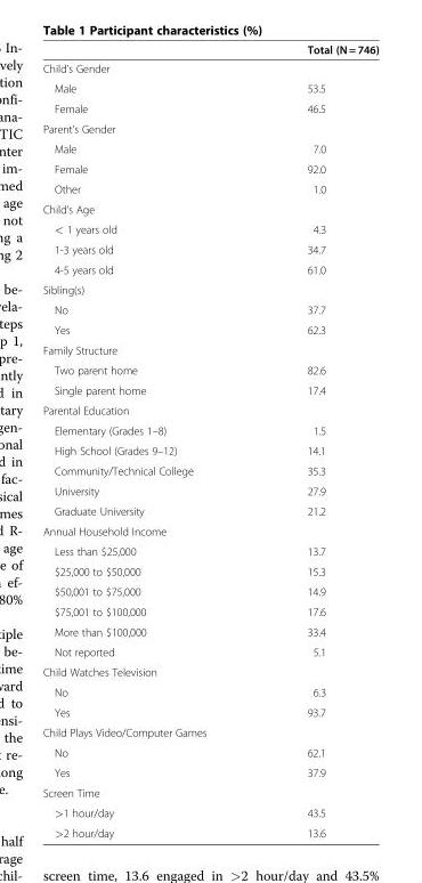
<table><thead><tr><td></td><td>Total (N = 746)</td></tr></thead><tbody><tr><td colspan="2">Child’s Gender</td></tr><tr><td>Male</td><td>53.5</td></tr><tr><td>Female</td><td>46.5</td></tr><tr><td colspan="2">Parent’s Gender</td></tr><tr><td>Male</td><td>7.0</td></tr><tr><td>Female</td><td>92.0</td></tr><tr><td>Other</td><td>1.0</td></tr><tr><td colspan="2">Child’s Age</td></tr><tr><td>&lt; 1 years old</td><td>4.3</td></tr><tr><td>1-3 years old</td><td>34.7</td></tr><tr><td>4-5 years old</td><td>61.0</td></tr><tr><td colspan="2">Sibling(s)</td></tr><tr><td>No</td><td>37.7</td></tr><tr><td>Yes</td><td>62.3</td></tr><tr><td colspan="2">Family Structure</td></tr><tr><td>Two parent home</td><td>82.6</td></tr><tr><td>Single parent home</td><td>17.4</td></tr><tr><td colspan="2">Parental Education</td></tr><tr><td>Elementary (Grades 1–8)</td><td>1.5</td></tr><tr><td>High School (Grades 9–12)</td><td>14.1</td></tr><tr><td>Community/Technical College</td><td>35.3</td></tr><tr><td>University</td><td>27.9</td></tr><tr><td>Graduate University</td><td>21.2</td></tr><tr><td colspan="2">Annual Household Income</td></tr><tr><td>Less than $25,000</td><td>13.7</td></tr><tr><td>$25,000 to $50,000</td><td>15.3</td></tr><tr><td>$50,001 to $75,000</td><td>14.9</td></tr><tr><td>$75,001 to $100,000</td><td>17.6</td></tr><tr><td>More than $100,000</td><td>33.4</td></tr><tr><td>Not reported</td><td>5.1</td></tr><tr><td colspan="2">Child Watches Television</td></tr><tr><td>No</td><td>6.3</td></tr><tr><td>Yes</td><td>93.7</td></tr><tr><td colspan="2">Child Plays Video/Computer Games</td></tr><tr><td>No</td><td>62.1</td></tr><tr><td>Yes</td><td>37.9</td></tr><tr><td colspan="2">Screen Time</td></tr><tr><td>&gt;1 hour/day</td><td>43.5</td></tr><tr><td>&gt;2 hour/day</td><td>13.6</td></tr></tbody></table>